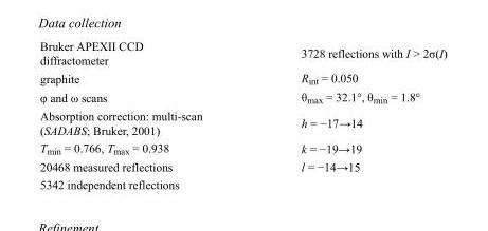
<table><tbody><tr><td>Bruker APEXII CCD diffractometer</td><td>3728 reflections with I &gt; 2σ(I)</td></tr><tr><td>graphite</td><td>R<sub>int</sub> = 0.050</td></tr><tr><td>φ and ω scans</td><td>θ<sub>max</sub> = 32.1°, θ<sub>min</sub> = 1.8°</td></tr><tr><td>Absorption correction: multi-scan (SADABS; Bruker, 2001)</td><td>h = −17→14</td></tr><tr><td>T<sub>min</sub> = 0.766, T<sub>max</sub> = 0.938</td><td>k = −19→19</td></tr><tr><td>20468 measured reflections</td><td>l = −14→15</td></tr><tr><td>5342 independent reflections</td><td></td></tr></tbody></table>